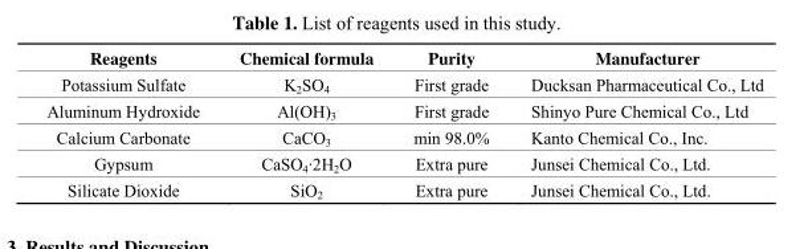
<table><thead><tr><td>Reagents</td><td>Chemical formula</td><td>Purity</td><td>Manufacturer</td></tr></thead><tbody><tr><td>Potassium Sulfate</td><td>K<sub>2</sub>SO<sub>4</sub></td><td>First grade</td><td>Ducksan Pharmaceutical Co., Ltd</td></tr><tr><td>Aluminum Hydroxide</td><td>Al(OH)<sub>3</sub></td><td>First grade</td><td>Shinyo Pure Chemical Co., Ltd</td></tr><tr><td>Calcium Carbonate</td><td>CaCO<sub>3</sub></td><td>min 98.0%</td><td>Kanto Chemical Co., Inc.</td></tr><tr><td>Gypsum</td><td>CaSO<sub>4</sub>·2H<sub>2</sub>O</td><td>Extra pure</td><td>Junsei Chemical Co., Ltd.</td></tr><tr><td>Silicate Dioxide</td><td>SiO<sub>2</sub></td><td>Extra pure</td><td>Junsei Chemical Co., Ltd.</td></tr></tbody></table>